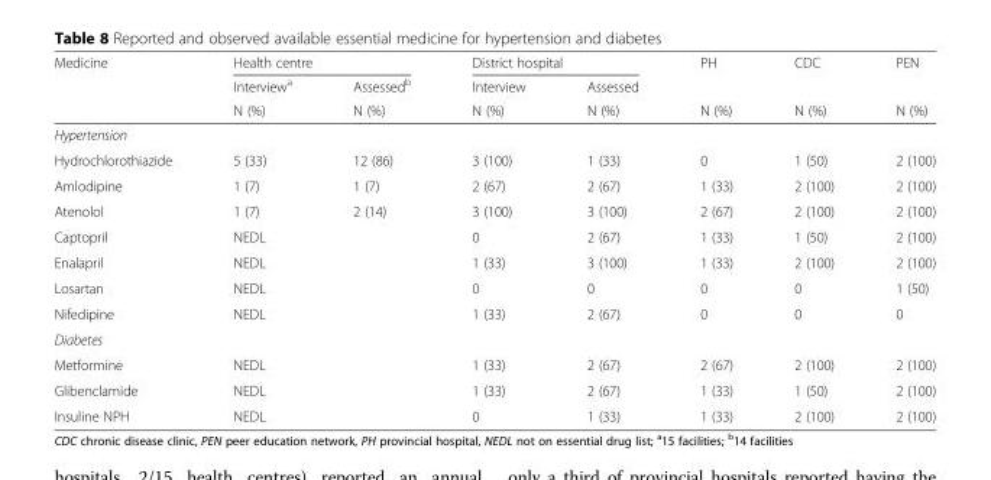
<table><thead><tr><td rowspan="3">Medicine</td><td colspan="2">Health centre</td><td colspan="2">District hospital</td><td rowspan="3">PH N (%)</td><td rowspan="3">CDC N (%)</td><td rowspan="3">PEN N (%)</td></tr><tr><td rowspan="2">Interview<sup>a</sup> N (%)</td><td rowspan="2">Assessed<sup>b</sup> N (%)</td><td rowspan="2">Interview N (%)</td><td rowspan="2">Assessed N (%)</td></tr><tr></tr></thead><tbody><tr><td colspan="8">Hypertension</td></tr><tr><td>Hydrochlorothiazide</td><td>5 (33)</td><td>12 (86)</td><td>3 (100)</td><td>1 (33)</td><td>0</td><td>1 (50)</td><td>2 (100)</td></tr><tr><td>Amlodipine</td><td>1 (7)</td><td>1 (7)</td><td>2 (67)</td><td>2 (67)</td><td>1 (33)</td><td>2 (100)</td><td>2 (100)</td></tr><tr><td>Atenolol</td><td>1 (7)</td><td>2 (14)</td><td>3 (100)</td><td>3 (100)</td><td>2 (67)</td><td>2 (100)</td><td>2 (100)</td></tr><tr><td>Captopril</td><td colspan="2">NEDL</td><td>0</td><td>2 (67)</td><td>1 (33)</td><td>1 (50)</td><td>2 (100)</td></tr><tr><td>Enalapril</td><td colspan="2">NEDL</td><td>1 (33)</td><td>3 (100)</td><td>1 (33)</td><td>2 (100)</td><td>2 (100)</td></tr><tr><td>Losartan</td><td colspan="2">NEDL</td><td>0</td><td>0</td><td>0</td><td>0</td><td>1 (50)</td></tr><tr><td>Nifedipine</td><td colspan="2">NEDL</td><td>1 (33)</td><td>2 (67)</td><td>0</td><td>0</td><td>0</td></tr><tr><td colspan="8">Diabetes</td></tr><tr><td>Metformine</td><td colspan="2">NEDL</td><td>1 (33)</td><td>2 (67)</td><td>2 (67)</td><td>2 (100)</td><td>2 (100)</td></tr><tr><td>Glibenclamide</td><td colspan="2">NEDL</td><td>1 (33)</td><td>2 (67)</td><td>1 (33)</td><td>1 (50)</td><td>2 (100)</td></tr><tr><td>Insuline NPH</td><td colspan="2">NEDL</td><td>0</td><td>1 (33)</td><td>1 (33)</td><td>2 (100)</td><td>2 (100)</td></tr></tbody></table>